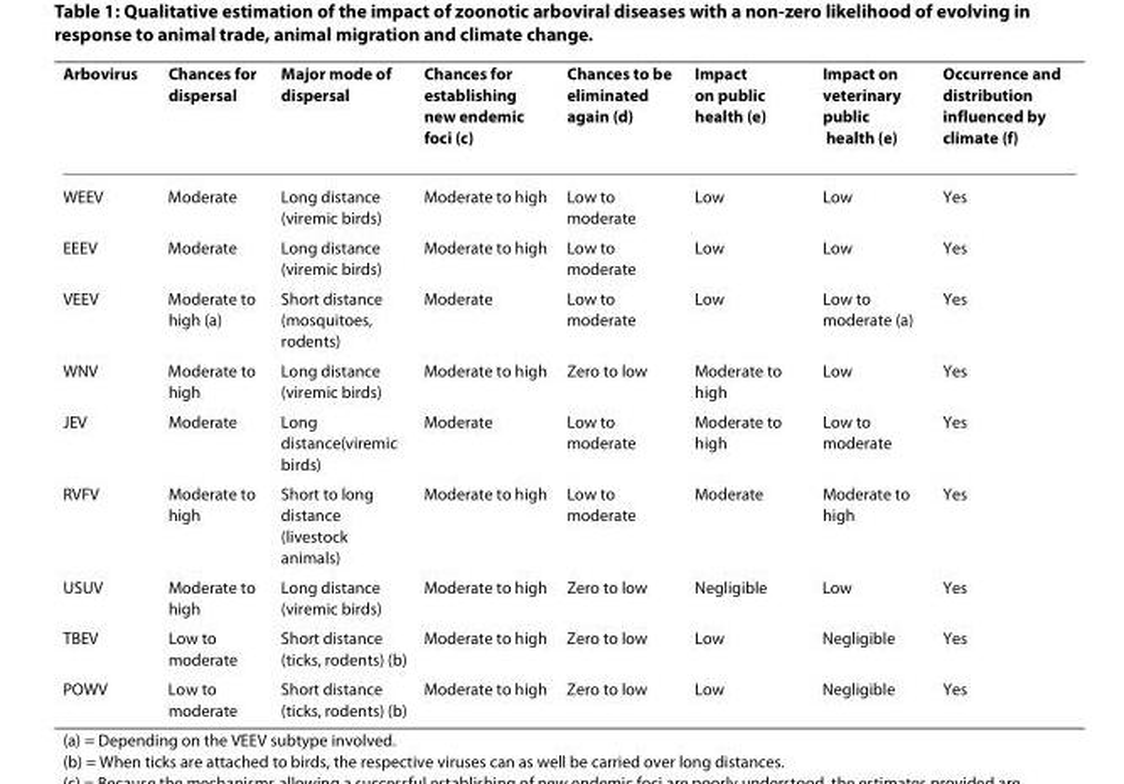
<table><thead><tr><td>Arbovirus</td><td>Chances for dispersal</td><td>Major mode of dispersal</td><td>Chances for establishing new endemic foci (c)</td><td>Chances to be eliminated again (d)</td><td>Impact on public health (e)</td><td>Impact on veterinary public health (e)</td><td>Occurrence and distribution influenced by climate (f)</td></tr></thead><tbody><tr><td>WEEV</td><td>Moderate</td><td>Long distance (viremic birds)</td><td>Moderate to high</td><td>Low to moderate</td><td>Low</td><td>Low</td><td>Yes</td></tr><tr><td>EEEV</td><td>Moderate</td><td>Long distance (viremic birds)</td><td>Moderate to high</td><td>Low to moderate</td><td>Low</td><td>Low</td><td>Yes</td></tr><tr><td>VEEV</td><td>Moderate to high (a)</td><td>Short distance (mosquitoes, rodents)</td><td>Moderate</td><td>Low to moderate</td><td>Low</td><td>Low to moderate (a)</td><td>Yes</td></tr><tr><td>WNV</td><td>Moderate to high</td><td>Long distance (viremic birds)</td><td>Moderate to high</td><td>Zero to low</td><td>Moderate to high</td><td>Low</td><td>Yes</td></tr><tr><td>JEV</td><td>Moderate</td><td>Long distance(viremic birds)</td><td>Moderate</td><td>Low to moderate</td><td>Moderate to high</td><td>Low to moderate</td><td>Yes</td></tr><tr><td>RVFV</td><td>Moderate to high</td><td>Short to long distance (livestock animals)</td><td>Moderate to high</td><td>Low to moderate</td><td>Moderate</td><td>Moderate to high</td><td>Yes</td></tr><tr><td>USUV</td><td>Moderate to high</td><td>Long distance (viremic birds)</td><td>Moderate to high</td><td>Zero to low</td><td>Negligible</td><td>Low</td><td>Yes</td></tr><tr><td>TBEV</td><td>Low to moderate</td><td>Short distance (ticks, rodents) (b)</td><td>Moderate to high</td><td>Zero to low</td><td>Low</td><td>Negligible</td><td>Yes</td></tr><tr><td>POWV</td><td>Low to moderate</td><td>Short distance (ticks, rodents) (b)</td><td>Moderate to high</td><td>Zero to low</td><td>Low</td><td>Negligible</td><td>Yes</td></tr></tbody></table>